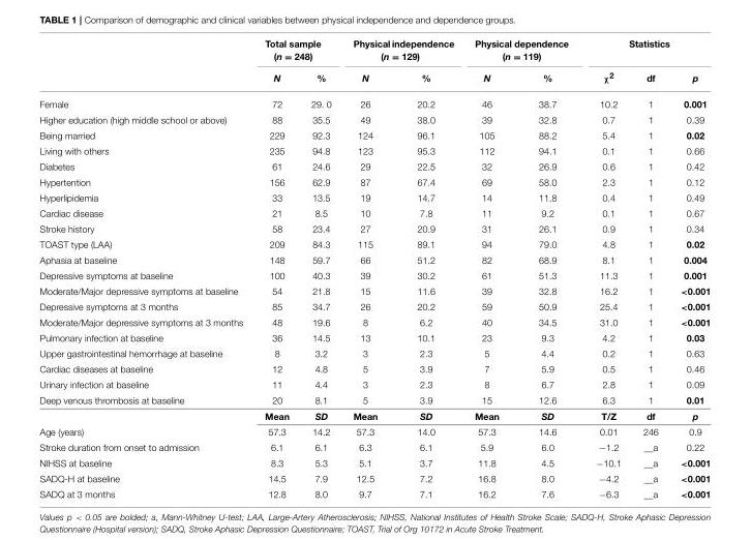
<table><thead><tr><td rowspan="2"></td><td colspan="2">Total sample (n = 248)</td><td colspan="2">Physical independence (n = 129)</td><td colspan="2">Physical dependence (n = 119)</td><td colspan="3">Statistics</td></tr><tr><td>N</td><td>%</td><td>N</td><td>%</td><td>N</td><td>%</td><td>χ<sup>2</sup></td><td>df</td><td>p</td></tr></thead><tbody><tr><td>Female</td><td>72</td><td>29. 0</td><td>26</td><td>20.2</td><td>46</td><td>38.7</td><td>10.2</td><td>1</td><td>0.001</td></tr><tr><td>Higher education (high middle school or above)</td><td>88</td><td>35.5</td><td>49</td><td>38.0</td><td>39</td><td>32.8</td><td>0.7</td><td>1</td><td>0.39</td></tr><tr><td>Being married</td><td>229</td><td>92.3</td><td>124</td><td>96.1</td><td>105</td><td>88.2</td><td>5.4</td><td>1</td><td>0.02</td></tr><tr><td>Living with others</td><td>235</td><td>94.8</td><td>123</td><td>95.3</td><td>112</td><td>94.1</td><td>0.1</td><td>1</td><td>0.66</td></tr><tr><td>Diabetes</td><td>61</td><td>24.6</td><td>29</td><td>22.5</td><td>32</td><td>26.9</td><td>0.6</td><td>1</td><td>0.42</td></tr><tr><td>Hypertention</td><td>156</td><td>62.9</td><td>87</td><td>67.4</td><td>69</td><td>58.0</td><td>2.3</td><td>1</td><td>0.12</td></tr><tr><td>Hyperlipidemia</td><td>33</td><td>13.5</td><td>19</td><td>14.7</td><td>14</td><td>11.8</td><td>0.4</td><td>1</td><td>0.49</td></tr><tr><td>Cardiac disease</td><td>21</td><td>8.5</td><td>10</td><td>7.8</td><td>11</td><td>9.2</td><td>0.1</td><td>1</td><td>0.67</td></tr><tr><td>Stroke history</td><td>58</td><td>23.4</td><td>27</td><td>20.9</td><td>31</td><td>26.1</td><td>0.9</td><td>1</td><td>0.34</td></tr><tr><td>TOAST type (LAA)</td><td>209</td><td>84.3</td><td>115</td><td>89.1</td><td>94</td><td>79.0</td><td>4.8</td><td>1</td><td>0.02</td></tr><tr><td>Aphasia at baseline</td><td>148</td><td>59.7</td><td>66</td><td>51.2</td><td>82</td><td>68.9</td><td>8.1</td><td>1</td><td>0.004</td></tr><tr><td>Depressive symptoms at baseline</td><td>100</td><td>40.3</td><td>39</td><td>30.2</td><td>61</td><td>51.3</td><td>11.3</td><td>1</td><td>0.001</td></tr><tr><td>Moderate/Major depressive symptoms at baseline</td><td>54</td><td>21.8</td><td>15</td><td>11.6</td><td>39</td><td>32.8</td><td>16.2</td><td>1</td><td>&lt;0.001</td></tr><tr><td>Depressive symptoms at 3 months</td><td>85</td><td>34.7</td><td>26</td><td>20.2</td><td>59</td><td>50.9</td><td>25.4</td><td>1</td><td>&lt;0.001</td></tr><tr><td>Moderate/Major depressive symptoms at 3 months</td><td>48</td><td>19.6</td><td>8</td><td>6.2</td><td>40</td><td>34.5</td><td>31.0</td><td>1</td><td>&lt;0.001</td></tr><tr><td>Pulmonary infection at baseline</td><td>36</td><td>14.5</td><td>13</td><td>10.1</td><td>23</td><td>9.3</td><td>4.2</td><td>1</td><td>0.03</td></tr><tr><td>Upper gastrointestinal hemorrhage at baseline</td><td>8</td><td>3.2</td><td>3</td><td>2.3</td><td>5</td><td>4.4</td><td>0.2</td><td>1</td><td>0.63</td></tr><tr><td>Cardiac diseases at baseline</td><td>12</td><td>4.8</td><td>5</td><td>3.9</td><td>7</td><td>5.9</td><td>0.5</td><td>1</td><td>0.46</td></tr><tr><td>Urinary infection at baseline</td><td>11</td><td>4.4</td><td>3</td><td>2.3</td><td>8</td><td>6.7</td><td>2.8</td><td>1</td><td>0.09</td></tr><tr><td rowspan="2">Deep venous thrombosis at baseline</td><td>20</td><td>8.1</td><td>5</td><td>3.9</td><td>15</td><td>12.6</td><td>6.3</td><td>1</td><td>0.01</td></tr><tr><td>Mean</td><td>SD</td><td>Mean</td><td>SD</td><td>Mean</td><td>SD</td><td>T/Z</td><td>df</td><td>p</td></tr><tr><td>Age (years)</td><td>57.3</td><td>14.2</td><td>57.3</td><td>14.0</td><td>57.3</td><td>14.6</td><td>0.01</td><td>246</td><td>0.9</td></tr><tr><td>Stroke duration from onset to admission</td><td>6.1</td><td>6.1</td><td>6.3</td><td>6.1</td><td>5.9</td><td>6.0</td><td>−1.2</td><td>__a</td><td>0.22</td></tr><tr><td>NIHSS at baseline</td><td>8.3</td><td>5.3</td><td>5.1</td><td>3.7</td><td>11.8</td><td>4.5</td><td>−10.1</td><td>__a</td><td>&lt;0.001</td></tr><tr><td>SADQ-H at baseline</td><td>14.5</td><td>7.9</td><td>12.5</td><td>7.2</td><td>16.8</td><td>8.0</td><td>−4.2</td><td>__a</td><td>&lt;0.001</td></tr><tr><td>SADQ at 3 months</td><td>12.8</td><td>8.0</td><td>9.7</td><td>7.1</td><td>16.2</td><td>7.6</td><td>−6.3</td><td>__a</td><td>&lt;0.001</td></tr></tbody></table>